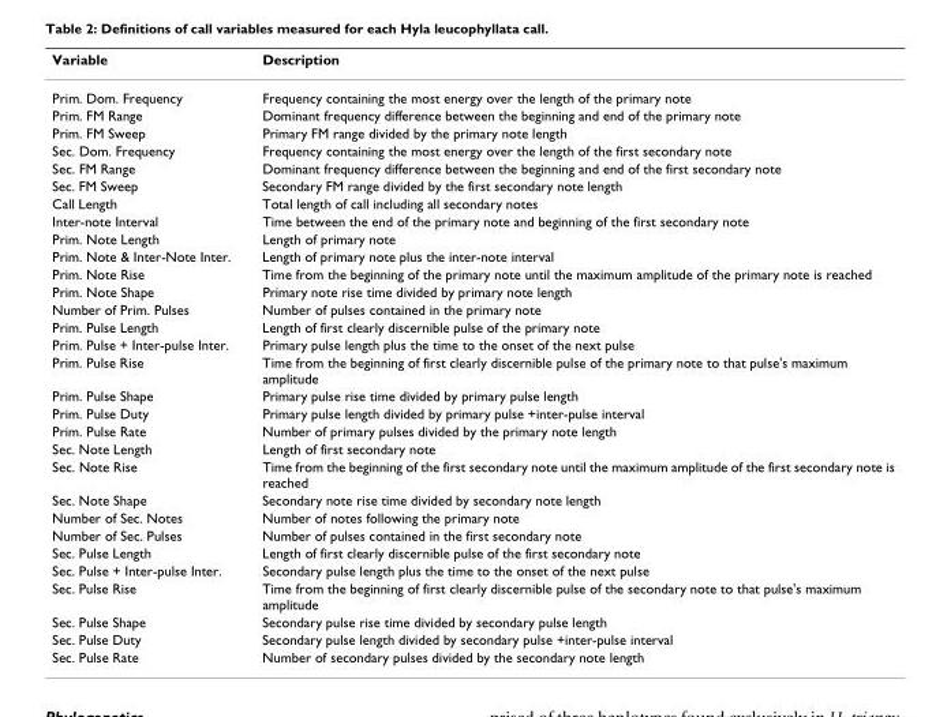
<table><thead><tr><td>Variable</td><td>Description</td></tr></thead><tbody><tr><td>Prim. Dom. Frequency</td><td>Frequency containing the most energy over the length of the primary note</td></tr><tr><td>Prim. FM Range</td><td>Dominant frequency difference between the beginning and end of the primary note</td></tr><tr><td>Prim. FM Sweep</td><td>Primary FM range divided by the primary note length</td></tr><tr><td>Sec. Dom. Frequency</td><td>Frequency containing the most energy over the length of the first secondary note</td></tr><tr><td>Sec. FM Range</td><td>Dominant frequency difference between the beginning and end of the first secondary note</td></tr><tr><td>Sec. FM Sweep</td><td>Secondary FM range divided by the first secondary note length</td></tr><tr><td>Call Length</td><td>Total length of call including all secondary notes</td></tr><tr><td>Inter-note Interval</td><td>Time between the end of the primary note and beginning of the first secondary note</td></tr><tr><td>Prim. Note Length</td><td>Length of primary note</td></tr><tr><td>Prim. Note &amp; Inter-Note Inter.</td><td>Length of primary note plus the inter-note interval</td></tr><tr><td>Prim. Note Rise</td><td>Time from the beginning of the primary note until the maximum amplitude of the primary note is reached</td></tr><tr><td>Prim. Note Shape</td><td>Primary note rise time divided by primary note length</td></tr><tr><td>Number of Prim. Pulses</td><td>Number of pulses contained in the primary note</td></tr><tr><td>Prim. Pulse Length</td><td>Length of first clearly discernible pulse of the primary note</td></tr><tr><td>Prim. Pulse + Inter-pulse Inter.</td><td>Primary pulse length plus the time to the onset of the next pulse</td></tr><tr><td>Prim. Pulse Rise</td><td>Time from the beginning of first clearly discernible pulse of the primary note to that pulse&#x27;s maximum amplitude</td></tr><tr><td>Prim. Pulse Shape</td><td>Primary pulse rise time divided by primary pulse length</td></tr><tr><td>Prim. Pulse Duty</td><td>Primary pulse length divided by primary pulse +inter-pulse interval</td></tr><tr><td>Prim. Pulse Rate</td><td>Number of primary pulses divided by the primary note length</td></tr><tr><td>Sec. Note Length</td><td>Length of first secondary note</td></tr><tr><td>Sec. Note Rise</td><td>Time from the beginning of the first secondary note until the maximum amplitude of the first secondary note is reached</td></tr><tr><td>Sec. Note Shape</td><td>Secondary note rise time divided by secondary note length</td></tr><tr><td>Number of Sec. Notes</td><td>Number of notes following the primary note</td></tr><tr><td>Number of Sec. Pulses</td><td>Number of pulses contained in the first secondary note</td></tr><tr><td>Sec. Pulse Length</td><td>Length of first clearly discernible pulse of the first secondary note</td></tr><tr><td>Sec. Pulse + Inter-pulse Inter.</td><td>Secondary pulse length plus the time to the onset of the next pulse</td></tr><tr><td>Sec. Pulse Rise</td><td>Time from the beginning of first clearly discernible pulse of the secondary note to that pulse&#x27;s maximum amplitude</td></tr><tr><td>Sec. Pulse Shape</td><td>Secondary pulse rise time divided by secondary pulse length</td></tr><tr><td>Sec. Pulse Duty</td><td>Secondary pulse length divided by secondary pulse +inter-pulse interval</td></tr><tr><td>Sec. Pulse Rate</td><td>Number of secondary pulses divided by the secondary note length</td></tr></tbody></table>